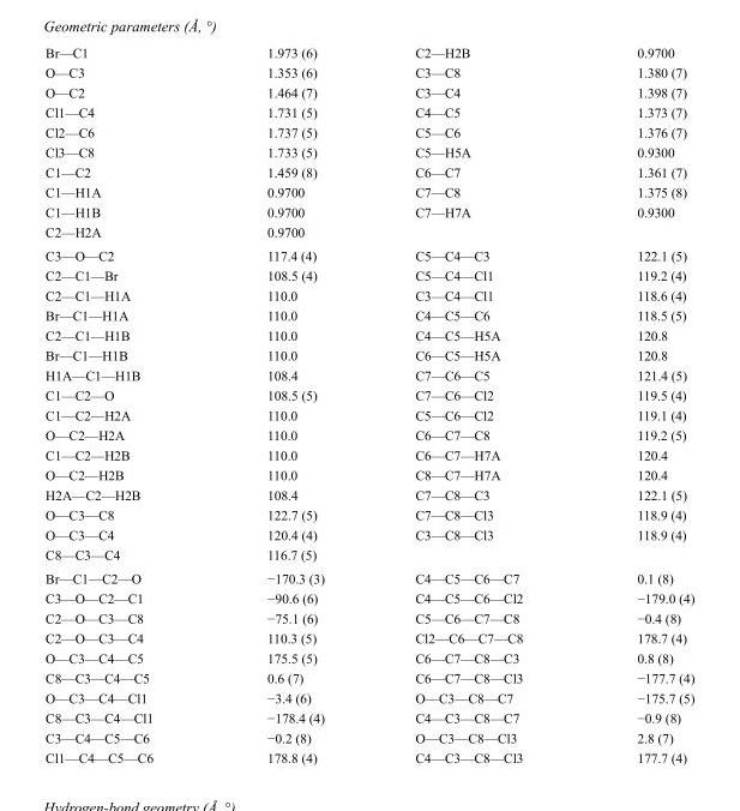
<table><tbody><tr><td>Br—C1</td><td>1.973 (6)</td><td>C2—H2B</td><td>0.9700</td></tr><tr><td>O—C3</td><td>1.353 (6)</td><td>C3—C8</td><td>1.380 (7)</td></tr><tr><td>O—C2</td><td>1.464 (7)</td><td>C3—C4</td><td>1.398 (7)</td></tr><tr><td>Cl1—C4</td><td>1.731 (5)</td><td>C4—C5</td><td>1.373 (7)</td></tr><tr><td>Cl2—C6</td><td>1.737 (5)</td><td>C5—C6</td><td>1.376 (7)</td></tr><tr><td>Cl3—C8</td><td>1.733 (5)</td><td>C5—H5A</td><td>0.9300</td></tr><tr><td>C1—C2</td><td>1.459 (8)</td><td>C6—C7</td><td>1.361 (7)</td></tr><tr><td>C1—H1A</td><td>0.9700</td><td>C7—C8</td><td>1.375 (8)</td></tr><tr><td>C1—H1B</td><td>0.9700</td><td>C7—H7A</td><td>0.9300</td></tr><tr><td>C2—H2A</td><td>0.9700</td><td></td><td></td></tr><tr><td>C3—O—C2</td><td>117.4 (4)</td><td>C5—C4—C3</td><td>122.1 (5)</td></tr><tr><td>C2—C1—Br</td><td>108.5 (4)</td><td>C5—C4—Cl1</td><td>119.2 (4)</td></tr><tr><td>C2—C1—H1A</td><td>110.0</td><td>C3—C4—Cl1</td><td>118.6 (4)</td></tr><tr><td>Br—C1—H1A</td><td>110.0</td><td>C4—C5—C6</td><td>118.5 (5)</td></tr><tr><td>C2—C1—H1B</td><td>110.0</td><td>C4—C5—H5A</td><td>120.8</td></tr><tr><td>Br—C1—H1B</td><td>110.0</td><td>C6—C5—H5A</td><td>120.8</td></tr><tr><td>H1A—C1—H1B</td><td>108.4</td><td>C7—C6—C5</td><td>121.4 (5)</td></tr><tr><td>C1—C2—O</td><td>108.5 (5)</td><td>C7—C6—Cl2</td><td>119.5 (4)</td></tr><tr><td>C1—C2—H2A</td><td>110.0</td><td>C5—C6—Cl2</td><td>119.1 (4)</td></tr><tr><td>O—C2—H2A</td><td>110.0</td><td>C6—C7—C8</td><td>119.2 (5)</td></tr><tr><td>C1—C2—H2B</td><td>110.0</td><td>C6—C7—H7A</td><td>120.4</td></tr><tr><td>O—C2—H2B</td><td>110.0</td><td>C8—C7—H7A</td><td>120.4</td></tr><tr><td>H2A—C2—H2B</td><td>108.4</td><td>C7—C8—C3</td><td>122.1 (5)</td></tr><tr><td>O—C3—C8</td><td>122.7 (5)</td><td>C7—C8—Cl3</td><td>118.9 (4)</td></tr><tr><td>O—C3—C4</td><td>120.4 (4)</td><td>C3—C8—Cl3</td><td>118.9 (4)</td></tr><tr><td>C8—C3—C4</td><td>116.7 (5)</td><td></td><td></td></tr><tr><td>Br—C1—C2—O</td><td>−170.3 (3)</td><td>C4—C5—C6—C7</td><td>0.1 (8)</td></tr><tr><td>C3—O—C2—C1</td><td>−90.6 (6)</td><td>C4—C5—C6—Cl2</td><td>−179.0 (4)</td></tr><tr><td>C2—O—C3—C8</td><td>−75.1 (6)</td><td>C5—C6—C7—C8</td><td>−0.4 (8)</td></tr><tr><td>C2—O—C3—C4</td><td>110.3 (5)</td><td>Cl2—C6—C7—C8</td><td>178.7 (4)</td></tr><tr><td>O—C3—C4—C5</td><td>175.5 (5)</td><td>C6—C7—C8—C3</td><td>0.8 (8)</td></tr><tr><td>C8—C3—C4—C5</td><td>0.6 (7)</td><td>C6—C7—C8—Cl3</td><td>−177.7 (4)</td></tr><tr><td>O—C3—C4—Cl1</td><td>−3.4 (6)</td><td>O—C3—C8—C7</td><td>−175.7 (5)</td></tr><tr><td>C8—C3—C4—Cl1</td><td>−178.4 (4)</td><td>C4—C3—C8—C7</td><td>−0.9 (8)</td></tr><tr><td>C3—C4—C5—C6</td><td>−0.2 (8)</td><td>O—C3—C8—Cl3</td><td>2.8 (7)</td></tr><tr><td>Cl1—C4—C5—C6</td><td>178.8 (4)</td><td>C4—C3—C8—Cl3</td><td>177.7 (4)</td></tr></tbody></table>